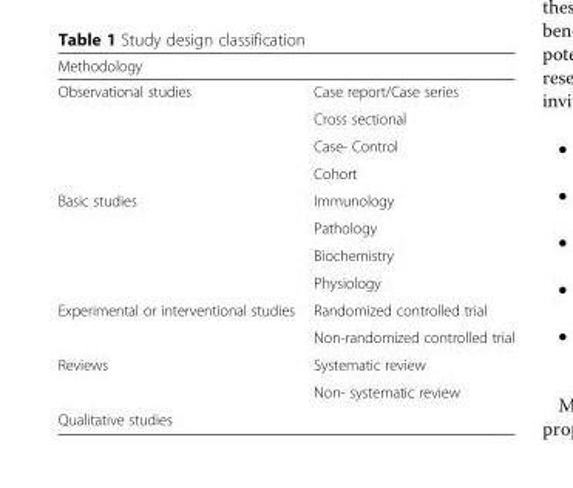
<table><thead><tr><td>Methodology</td><td></td></tr></thead><tbody><tr><td rowspan="4">Observational studies</td><td>Case report/Case series</td></tr><tr><td>Cross sectional</td></tr><tr><td>Case- Control</td></tr><tr><td>Cohort</td></tr><tr><td rowspan="4">Basic studies</td><td>Immunology</td></tr><tr><td>Pathology</td></tr><tr><td>Biochemistry</td></tr><tr><td>Physiology</td></tr><tr><td rowspan="2">Experimental or interventional studies</td><td>Randomized controlled trial</td></tr><tr><td>Non-randomized controlled trial</td></tr><tr><td rowspan="2">Reviews</td><td>Systematic review</td></tr><tr><td>Non- systematic review</td></tr><tr><td>Qualitative studies</td><td></td></tr></tbody></table>